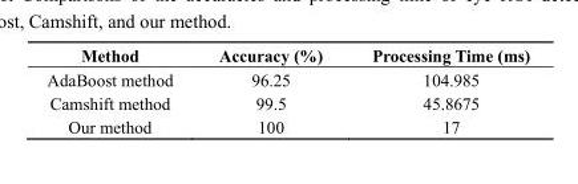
<table><thead><tr><td>Method</td><td>Accuracy (%)</td><td>Processing Time (ms)</td></tr></thead><tbody><tr><td>AdaBoost method</td><td>96.25</td><td>104.985</td></tr><tr><td>Camshift method</td><td>99.5</td><td>45.8675</td></tr><tr><td>Our method</td><td>100</td><td>17</td></tr></tbody></table>